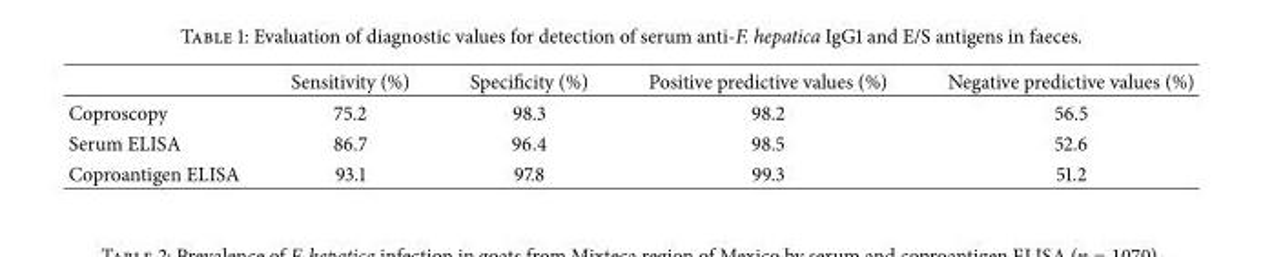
<table><thead><tr><td></td><td>Sensitivity (%)</td><td>Specificity (%)</td><td>Positive predictive values (%)</td><td>Negative predictive values (%)</td></tr></thead><tbody><tr><td>Coproscopy</td><td>75.2</td><td>98.3</td><td>98.2</td><td>56.5</td></tr><tr><td>Serum ELISA</td><td>86.7</td><td>96.4</td><td>98.5</td><td>52.6</td></tr><tr><td>Coproantigen ELISA</td><td>93.1</td><td>97.8</td><td>99.3</td><td>51.2</td></tr></tbody></table>